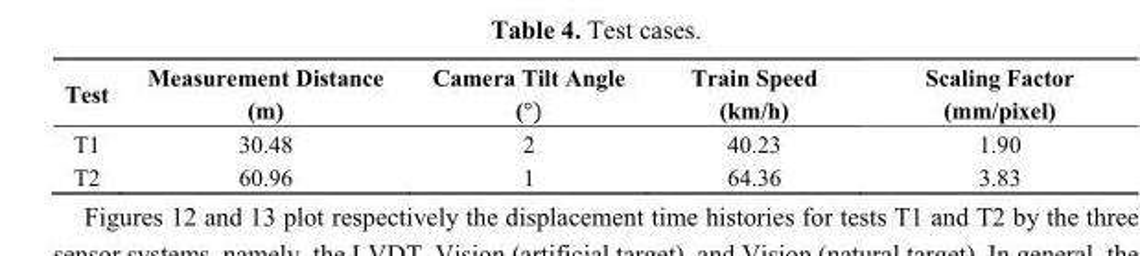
<table><thead><tr><td>Test</td><td>Measurement Distance (m)</td><td>Camera Tilt Angle (°)</td><td>Train Speed (km/h)</td><td>Scaling Factor (mm/pixel)</td></tr></thead><tbody><tr><td>T1</td><td>30.48</td><td>2</td><td>40.23</td><td>1.90</td></tr><tr><td>T2</td><td>60.96</td><td>1</td><td>64.36</td><td>3.83</td></tr></tbody></table>